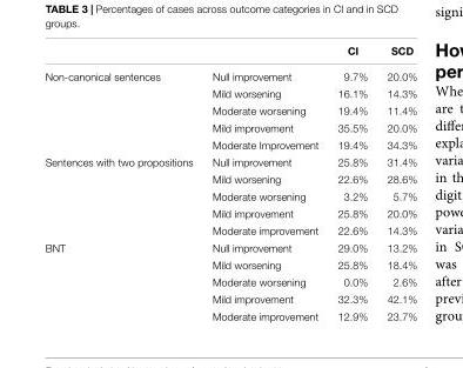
<table><thead><tr><td></td><td></td><td>CI</td><td>SCD</td></tr></thead><tbody><tr><td rowspan="5">Non-canonical sentences</td><td>Null improvement</td><td>9.7%</td><td>20.0%</td></tr><tr><td>Mild worsening</td><td>16.1%</td><td>14.3%</td></tr><tr><td>Moderate worsening</td><td>19.4%</td><td>11.4%</td></tr><tr><td>Mild improvement</td><td>35.5%</td><td>20.0%</td></tr><tr><td>Moderate Improvement</td><td>19.4%</td><td>34.3%</td></tr><tr><td rowspan="5">Sentences with two propositions</td><td>Null improvement</td><td>25.8%</td><td>31.4%</td></tr><tr><td>Mild worsening</td><td>22.6%</td><td>28.6%</td></tr><tr><td>Moderate worsening</td><td>3.2%</td><td>5.7%</td></tr><tr><td>Mild improvement</td><td>25.8%</td><td>20.0%</td></tr><tr><td>Moderate improvement</td><td>22.6%</td><td>14.3%</td></tr><tr><td rowspan="5">BNT</td><td>Null improvement</td><td>29.0%</td><td>13.2%</td></tr><tr><td>Mild worsening</td><td>25.8%</td><td>18.4%</td></tr><tr><td>Moderate worsening</td><td>0.0%</td><td>2.6%</td></tr><tr><td>Mild improvement</td><td>32.3%</td><td>42.1%</td></tr><tr><td>Moderate improvement</td><td>12.9%</td><td>23.7%</td></tr></tbody></table>